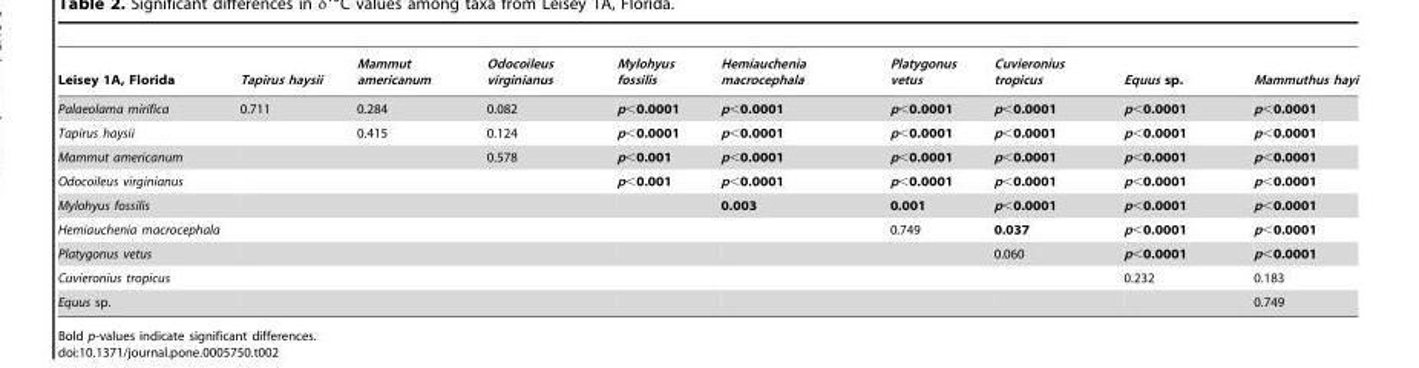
<table><thead><tr><td>Leisey 1A, Florida</td><td>Tapirus haysii</td><td>Mammut americanum</td><td>Odocoileus virginianus</td><td>Mylohyus fossilis</td><td>Hemiauchenia macrocephala</td><td>Platygonus vetus</td><td>Cuvieronius tropicus</td><td>Equus sp.</td><td>Mammuthus hayi</td></tr></thead><tbody><tr><td>Palaeolama mirifica</td><td>0.711</td><td>0.284</td><td>0.082</td><td>p&lt;0.0001</td><td>p&lt;0.0001</td><td>p&lt;0.0001</td><td>p&lt;0.0001</td><td>p&lt;0.0001</td><td>p&lt;0.0001</td></tr><tr><td>Tapirus haysii</td><td></td><td>0.415</td><td>0.124</td><td>p&lt;0.0001</td><td>p&lt;0.0001</td><td>p&lt;0.0001</td><td>p&lt;0.0001</td><td>p&lt;0.0001</td><td>p&lt;0.0001</td></tr><tr><td>Mammut americanum</td><td></td><td></td><td>0.578</td><td>p&lt;0.001</td><td>p&lt;0.0001</td><td>p&lt;0.0001</td><td>p&lt;0.0001</td><td>p&lt;0.0001</td><td>p&lt;0.0001</td></tr><tr><td>Odocoileus virginianus</td><td></td><td></td><td></td><td>p&lt;0.001</td><td>p&lt;0.0001</td><td>p&lt;0.0001</td><td>p&lt;0.0001</td><td>p&lt;0.0001</td><td>p&lt;0.0001</td></tr><tr><td>Mylohyus fossilis</td><td></td><td></td><td></td><td></td><td>0.003</td><td>0.001</td><td>p&lt;0.0001</td><td>p&lt;0.0001</td><td>p&lt;0.0001</td></tr><tr><td>Hemiauchenia macrocephala</td><td></td><td></td><td></td><td></td><td></td><td>0.749</td><td>0.037</td><td>p&lt;0.0001</td><td>p&lt;0.0001</td></tr><tr><td>Platygonus vetus</td><td></td><td></td><td></td><td></td><td></td><td></td><td>0.060</td><td>p&lt;0.0001</td><td>p&lt;0.0001</td></tr><tr><td>Cuvieronius tropicus</td><td></td><td></td><td></td><td></td><td></td><td></td><td></td><td>0.232</td><td>0.183</td></tr><tr><td>Equus sp.</td><td></td><td></td><td></td><td></td><td></td><td></td><td></td><td></td><td>0.749</td></tr></tbody></table>